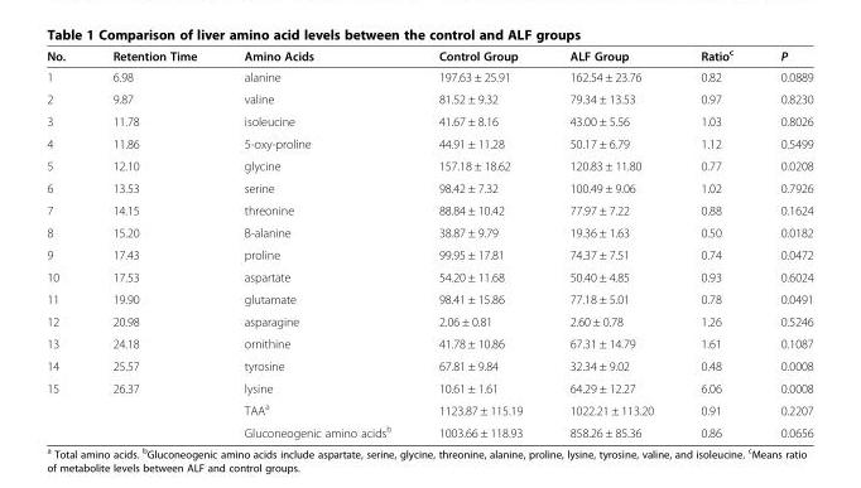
<table><thead><tr><td>No.</td><td>Retention Time</td><td>Amino Acids</td><td>Control Group</td><td>ALF Group</td><td>Ratio<sup>c</sup></td><td>P</td></tr></thead><tbody><tr><td>1</td><td>6.98</td><td>alanine</td><td>197.63 ± 25.91</td><td>162.54 ± 23.76</td><td>0.82</td><td>0.0889</td></tr><tr><td>2</td><td>9.87</td><td>valine</td><td>81.52 ± 9.32</td><td>79.34 ± 13.53</td><td>0.97</td><td>0.8230</td></tr><tr><td>3</td><td>11.78</td><td>isoleucine</td><td>41.67 ± 8.16</td><td>43.00 ± 5.56</td><td>1.03</td><td>0.8026</td></tr><tr><td>4</td><td>11.86</td><td>5-oxy-proline</td><td>44.91 ± 11.28</td><td>50.17 ± 6.79</td><td>1.12</td><td>0.5499</td></tr><tr><td>5</td><td>12.10</td><td>glycine</td><td>157.18 ± 18.62</td><td>120.83 ± 11.80</td><td>0.77</td><td>0.0208</td></tr><tr><td>6</td><td>13.53</td><td>serine</td><td>98.42 ± 7.32</td><td>100.49 ± 9.06</td><td>1.02</td><td>0.7926</td></tr><tr><td>7</td><td>14.15</td><td>threonine</td><td>88.84 ± 10.42</td><td>77.97 ± 7.22</td><td>0.88</td><td>0.1624</td></tr><tr><td>8</td><td>15.20</td><td>B-alanine</td><td>38.87 ± 9.79</td><td>19.36 ± 1.63</td><td>0.50</td><td>0.0182</td></tr><tr><td>9</td><td>17.43</td><td>proline</td><td>99.95 ± 17.81</td><td>74.37 ± 7.51</td><td>0.74</td><td>0.0472</td></tr><tr><td>10</td><td>17.53</td><td>aspartate</td><td>54.20 ± 11.68</td><td>50.40 ± 4.85</td><td>0.93</td><td>0.6024</td></tr><tr><td>11</td><td>19.90</td><td>glutamate</td><td>98.41 ± 15.86</td><td>77.18 ± 5.01</td><td>0.78</td><td>0.0491</td></tr><tr><td>12</td><td>20.98</td><td>asparagine</td><td>2.06 ± 0.81</td><td>2.60 ± 0.78</td><td>1.26</td><td>0.5246</td></tr><tr><td>13</td><td>24.18</td><td>ornithine</td><td>41.78 ± 10.86</td><td>67.31 ± 14.79</td><td>1.61</td><td>0.1087</td></tr><tr><td>14</td><td>25.57</td><td>tyrosine</td><td>67.81 ± 9.84</td><td>32.34 ± 9.02</td><td>0.48</td><td>0.0008</td></tr><tr><td rowspan="3">15</td><td>26.37</td><td>lysine</td><td>10.61 ± 1.61</td><td>64.29 ± 12.27</td><td>6.06</td><td>0.0008</td></tr><tr><td></td><td>TAA<sup>a</sup></td><td>1123.87 ± 115.19</td><td>1022.21 ± 113.20</td><td>0.91</td><td>0.2207</td></tr><tr><td></td><td>Gluconeogenic amino acids<sup>b</sup></td><td>1003.66 ± 118.93</td><td>858.26 ± 85.36</td><td>0.86</td><td>0.0656</td></tr></tbody></table>